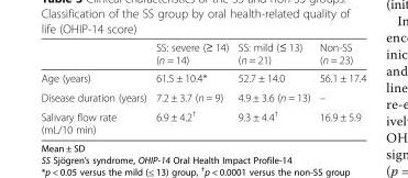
<table><thead><tr><td></td><td>SS: severe (≥ 14) (n = 14)</td><td>SS: mild (≤ 13) (n = 21)</td><td>Non-SS (n = 23)</td></tr></thead><tbody><tr><td>Age (years)</td><td>61.5 ± 10.4*</td><td>52.7 ± 14.0</td><td>56.1 ± 17.4</td></tr><tr><td>Disease duration (years)</td><td>7.2 ± 3.7 (n = 9)</td><td>4.9 ± 3.6 (n = 13)</td><td>–</td></tr><tr><td>Salivary flow rate (mL/10 min)</td><td>6.9 ± 4.2<sup>†</sup></td><td>9.3 ± 4.4<sup>†</sup></td><td>16.9 ± 5.9</td></tr></tbody></table>